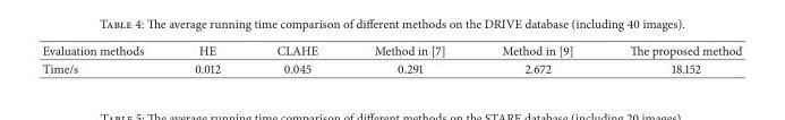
<table><thead><tr><td>Evaluation methods</td><td>HE</td><td>CLAHE</td><td>Method in [7]</td><td>Method in [9]</td><td>The proposed method</td></tr></thead><tbody><tr><td>Time/s</td><td>0.012</td><td>0.045</td><td>0.291</td><td>2.672</td><td>18.152</td></tr></tbody></table>